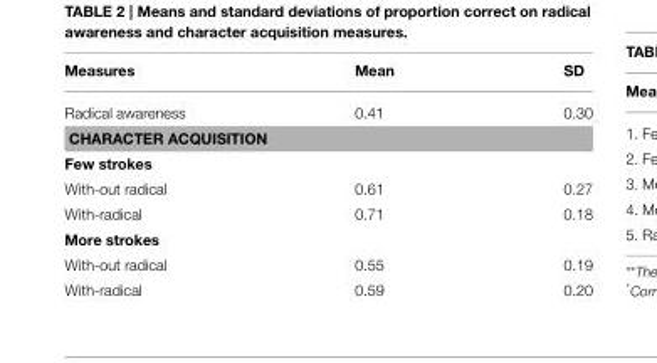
<table><thead><tr><td>Measures</td><td>Mean</td><td>SD</td></tr></thead><tbody><tr><td>Radical awareness</td><td>0.41</td><td>0.30</td></tr><tr><td colspan="3">CHARACTER ACQUISITION</td></tr><tr><td colspan="3">Few strokes</td></tr><tr><td>With-out radical</td><td>0.61</td><td>0.27</td></tr><tr><td>With-radical</td><td>0.71</td><td>0.18</td></tr><tr><td colspan="3">More strokes</td></tr><tr><td>With-out radical</td><td>0.55</td><td>0.19</td></tr><tr><td>With-radical</td><td>0.59</td><td>0.20</td></tr></tbody></table>